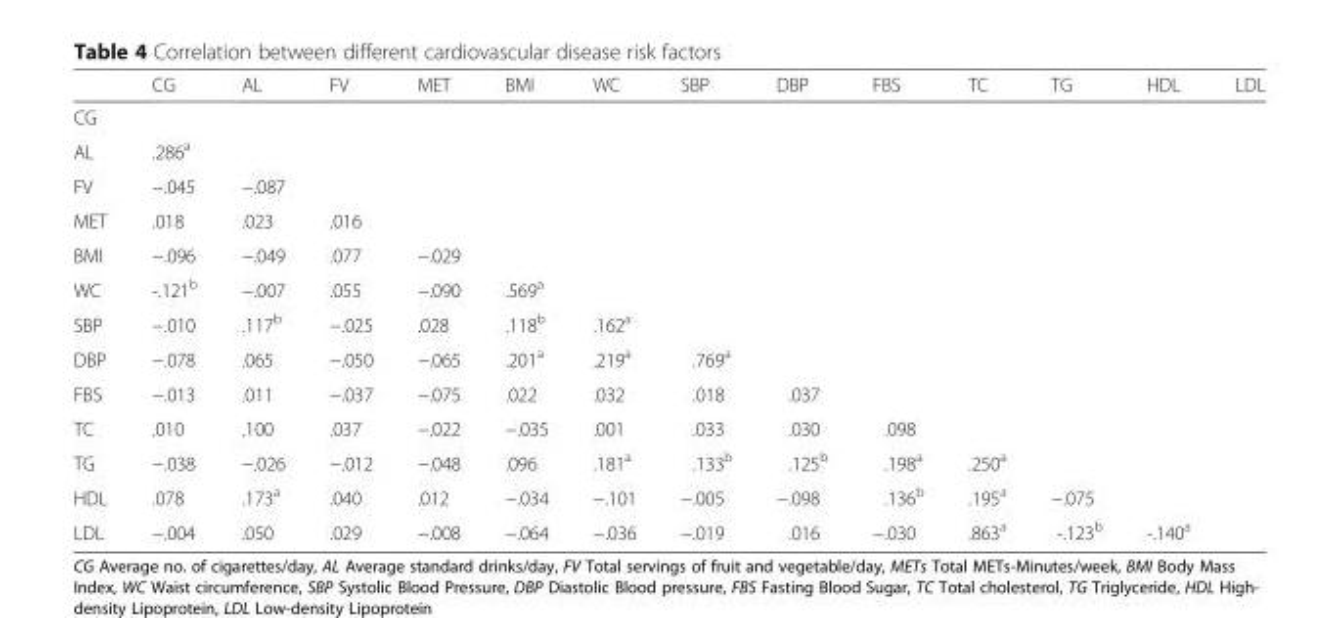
<table><thead><tr><td></td><td>CG</td><td>AL</td><td>FV</td><td>MET</td><td>BMI</td><td>WC</td><td>SBP</td><td>DBP</td><td>FBS</td><td>TC</td><td>TG</td><td>HDL</td><td>LDL</td></tr></thead><tbody><tr><td colspan="14">CG</td></tr><tr><td>AL</td><td>.286<sup>a</sup></td><td></td><td></td><td></td><td></td><td></td><td></td><td></td><td></td><td></td><td></td><td></td><td></td></tr><tr><td>FV</td><td>−.045</td><td>−.087</td><td></td><td></td><td></td><td></td><td></td><td></td><td></td><td></td><td></td><td></td><td></td></tr><tr><td>MET</td><td>.018</td><td>.023</td><td>.016</td><td></td><td></td><td></td><td></td><td></td><td></td><td></td><td></td><td></td><td></td></tr><tr><td>BMI</td><td>−.096</td><td>−.049</td><td>.077</td><td>−.029</td><td></td><td></td><td></td><td></td><td></td><td></td><td></td><td></td><td></td></tr><tr><td>WC</td><td>-.121<sup>b</sup></td><td>−.007</td><td>.055</td><td>−.090</td><td>.569<sup>a</sup></td><td></td><td></td><td></td><td></td><td></td><td></td><td></td><td></td></tr><tr><td>SBP</td><td>−.010</td><td>.117<sup>b</sup></td><td>−.025</td><td>.028</td><td>.118<sup>b</sup></td><td>.162<sup>a</sup></td><td></td><td></td><td></td><td></td><td></td><td></td><td></td></tr><tr><td>DBP</td><td>−.078</td><td>.065</td><td>−.050</td><td>−.065</td><td>.201<sup>a</sup></td><td>.219<sup>a</sup></td><td>.769<sup>a</sup></td><td></td><td></td><td></td><td></td><td></td><td></td></tr><tr><td>FBS</td><td>−.013</td><td>.011</td><td>−.037</td><td>−.075</td><td>.022</td><td>.032</td><td>.018</td><td>.037</td><td></td><td></td><td></td><td></td><td></td></tr><tr><td>TC</td><td>.010</td><td>.100</td><td>.037</td><td>−.022</td><td>−.035</td><td>.001</td><td>.033</td><td>.030</td><td>.098</td><td></td><td></td><td></td><td></td></tr><tr><td>TG</td><td>−.038</td><td>−.026</td><td>−.012</td><td>−.048</td><td>.096</td><td>.181<sup>a</sup></td><td>.133<sup>b</sup></td><td>.125<sup>b</sup></td><td>.198<sup>a</sup></td><td>.250<sup>a</sup></td><td></td><td></td><td></td></tr><tr><td>HDL</td><td>.078</td><td>.173<sup>a</sup></td><td>.040</td><td>.012</td><td>−.034</td><td>−.101</td><td>−.005</td><td>−.098</td><td>.136<sup>b</sup></td><td>.195<sup>a</sup></td><td>−.075</td><td></td><td></td></tr><tr><td>LDL</td><td>−.004</td><td>.050</td><td>.029</td><td>−.008</td><td>−.064</td><td>−.036</td><td>−.019</td><td>.016</td><td>−.030</td><td>.863<sup>a</sup></td><td>-.123<sup>b</sup></td><td>-.140<sup>a</sup></td><td></td></tr></tbody></table>